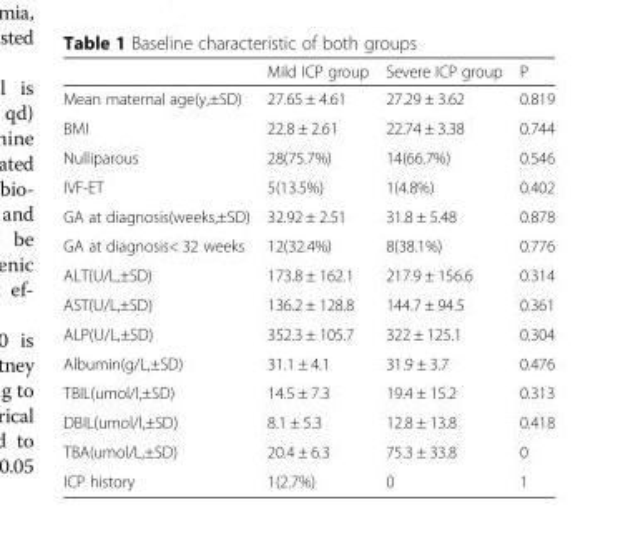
<table><thead><tr><td></td><td>Mild ICP group</td><td>Severe ICP group</td><td>P</td></tr></thead><tbody><tr><td>Mean maternal age(y,±SD)</td><td>27.65 ± 4.61</td><td>27.29 ± 3.62</td><td>0.819</td></tr><tr><td>BMI</td><td>22.8 ± 2.61</td><td>22.74 ± 3.38</td><td>0.744</td></tr><tr><td>Nulliparous</td><td>28(75.7%)</td><td>14(66.7%)</td><td>0.546</td></tr><tr><td>IVF-ET</td><td>5(13.5%)</td><td>1(4.8%)</td><td>0.402</td></tr><tr><td>GA at diagnosis(weeks,±SD)</td><td>32.92 ± 2.51</td><td>31.8 ± 5.48</td><td>0.878</td></tr><tr><td>GA at diagnosis&lt; 32 weeks</td><td>12(32.4%)</td><td>8(38.1%)</td><td>0.776</td></tr><tr><td>ALT(U/L,±SD)</td><td>173.8 ± 162.1</td><td>217.9 ± 156.6</td><td>0.314</td></tr><tr><td>AST(U/L,±SD)</td><td>136.2 ± 128.8</td><td>144.7 ± 94.5</td><td>0.361</td></tr><tr><td>ALP(U/L,±SD)</td><td>352.3 ± 105.7</td><td>322 ± 125.1</td><td>0.304</td></tr><tr><td>Albumin(g/L,±SD)</td><td>31.1 ± 4.1</td><td>31.9 ± 3.7</td><td>0.476</td></tr><tr><td>TBIL(umol/l,±SD)</td><td>14.5 ± 7.3</td><td>19.4 ± 15.2</td><td>0.313</td></tr><tr><td>DBIL(umol/l,±SD)</td><td>8.1 ± 5.3</td><td>12.8 ± 13.8</td><td>0.418</td></tr><tr><td>TBA(umol/L,±SD)</td><td>20.4 ± 6.3</td><td>75.3 ± 33.8</td><td>0</td></tr><tr><td>ICP history</td><td>1(2.7%)</td><td>0</td><td>1</td></tr></tbody></table>